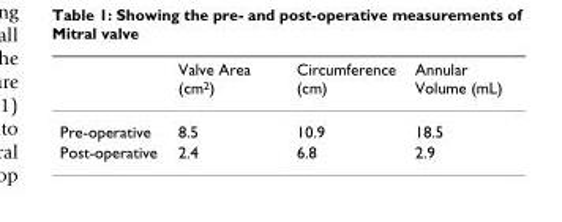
<table><thead><tr><td></td><td>Valve Area (cm<sup>2</sup>)</td><td>Circumference (cm)</td><td>Annular Volume (mL)</td></tr></thead><tbody><tr><td>Pre-operative</td><td>8.5</td><td>10.9</td><td>18.5</td></tr><tr><td>Post-operative</td><td>2.4</td><td>6.8</td><td>2.9</td></tr></tbody></table>